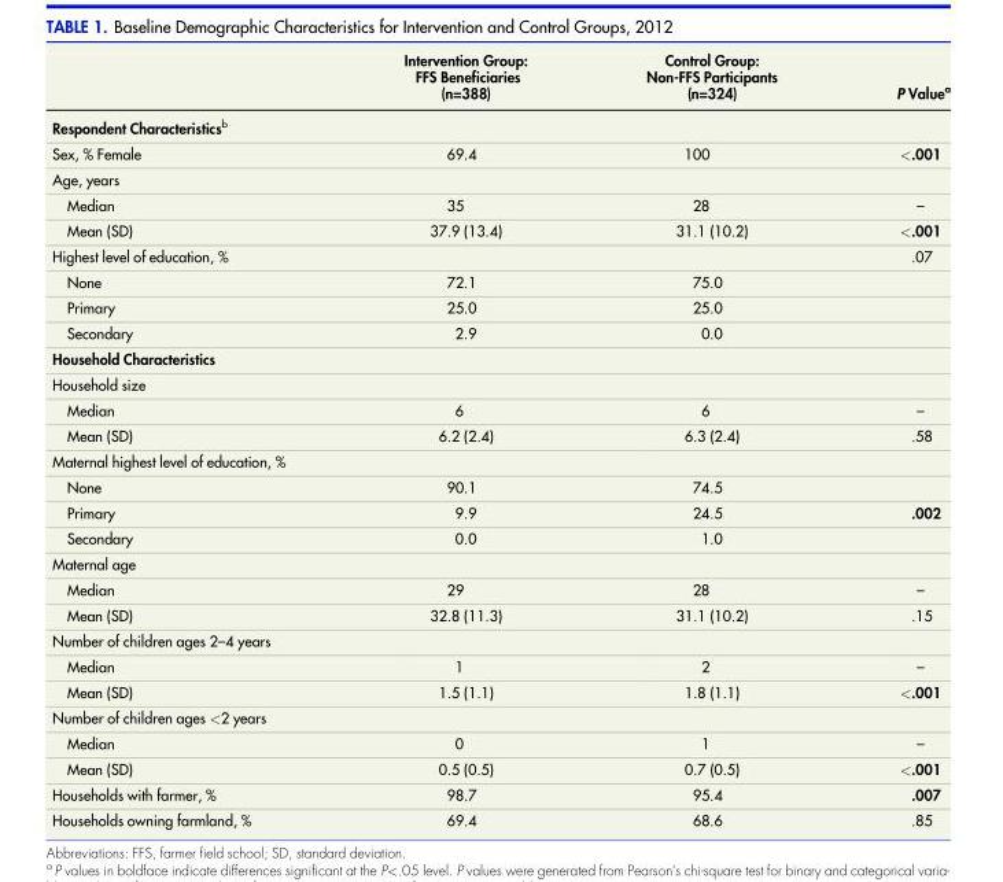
<table><thead><tr><td></td><td>Intervention Group: FFS Beneficiaries (n=388)</td><td>Control Group: Non-FFS Participants (n=324)</td><td>P Value<sup>a</sup></td></tr></thead><tbody><tr><td colspan="4">Respondent Characteristics<sup>b</sup></td></tr><tr><td>Sex, % Female</td><td>69.4</td><td>100</td><td>&lt;.001</td></tr><tr><td colspan="4">Age, years</td></tr><tr><td>Median</td><td>35</td><td>28</td><td>–</td></tr><tr><td>Mean (SD)</td><td>37.9 (13.4)</td><td>31.1 (10.2)</td><td>&lt;.001</td></tr><tr><td>Highest level of education, %</td><td></td><td></td><td>.07</td></tr><tr><td>None</td><td>72.1</td><td>75.0</td><td></td></tr><tr><td>Primary</td><td>25.0</td><td>25.0</td><td></td></tr><tr><td>Secondary</td><td>2.9</td><td>0.0</td><td></td></tr><tr><td colspan="4">Household Characteristics</td></tr><tr><td colspan="4">Household size</td></tr><tr><td>Median</td><td>6</td><td>6</td><td>–</td></tr><tr><td>Mean (SD)</td><td>6.2 (2.4)</td><td>6.3 (2.4)</td><td>.58</td></tr><tr><td colspan="4">Maternal highest level of education, %</td></tr><tr><td>None</td><td>90.1</td><td>74.5</td><td></td></tr><tr><td>Primary</td><td>9.9</td><td>24.5</td><td>.002</td></tr><tr><td>Secondary</td><td>0.0</td><td>1.0</td><td></td></tr><tr><td colspan="4">Maternal age</td></tr><tr><td>Median</td><td>29</td><td>28</td><td>–</td></tr><tr><td>Mean (SD)</td><td>32.8 (11.3)</td><td>31.1 (10.2)</td><td>.15</td></tr><tr><td colspan="4">Number of children ages 2–4 years</td></tr><tr><td>Median</td><td>1</td><td>2</td><td>–</td></tr><tr><td>Mean (SD)</td><td>1.5 (1.1)</td><td>1.8 (1.1)</td><td>&lt;.001</td></tr><tr><td colspan="4">Number of children ages &lt;2 years</td></tr><tr><td>Median</td><td>0</td><td>1</td><td>–</td></tr><tr><td>Mean (SD)</td><td>0.5 (0.5)</td><td>0.7 (0.5)</td><td>&lt;.001</td></tr><tr><td>Households with farmer, %</td><td>98.7</td><td>95.4</td><td>.007</td></tr><tr><td>Households owning farmland, %</td><td>69.4</td><td>68.6</td><td>.85</td></tr></tbody></table>